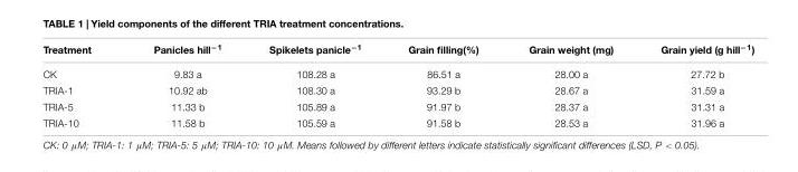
<table><thead><tr><td>Treatment</td><td>Panicles hill<sup>−1</sup></td><td>Spikelets panicle<sup>−1</sup></td><td>Grain filling(%)</td><td>Grain weight (mg)</td><td>Grain yield (g hill<sup>−1</sup>)</td></tr></thead><tbody><tr><td>CK</td><td>9.83 a</td><td>108.28 a</td><td>86.51 a</td><td>28.00 a</td><td>27.72 b</td></tr><tr><td>TRIA-1</td><td>10.92 ab</td><td>108.30 a</td><td>93.29 b</td><td>28.67 a</td><td>31.59 a</td></tr><tr><td>TRIA-5</td><td>11.33 b</td><td>105.89 a</td><td>91.97 b</td><td>28.37 a</td><td>31.31 a</td></tr><tr><td>TRIA-10</td><td>11.58 b</td><td>105.59 a</td><td>91.58 b</td><td>28.53 a</td><td>31.96 a</td></tr></tbody></table>